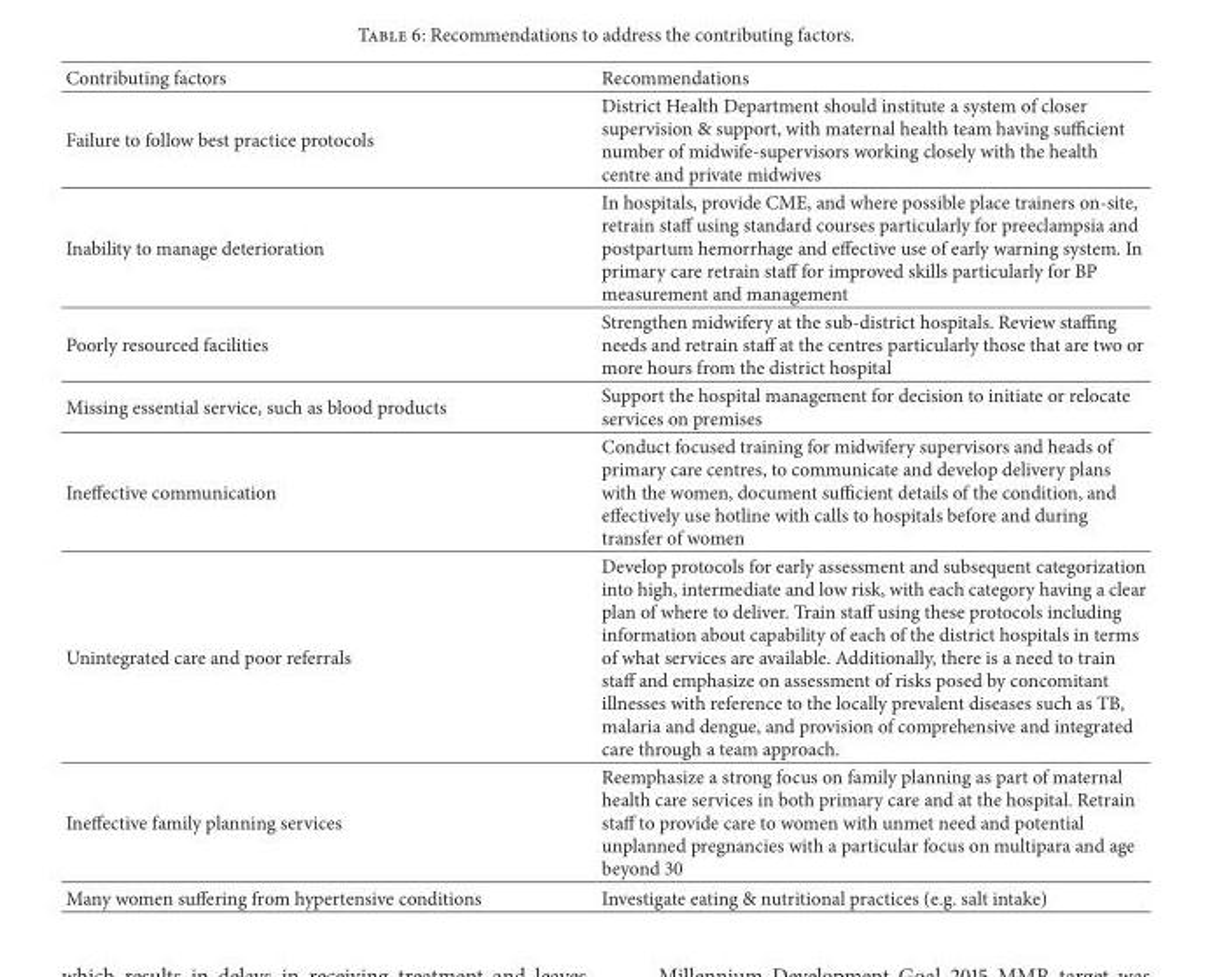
<table><thead><tr><td>Contributing factors</td><td>Recommendations</td></tr></thead><tbody><tr><td>Failure to follow best practice protocols</td><td>District Health Department should institute a system of closer supervision &amp; support, with maternal health team having sufficient number of midwife-supervisors working closely with the health centre and private midwives</td></tr><tr><td>Inability to manage deterioration</td><td>In hospitals, provide CME, and where possible place trainers on-site, retrain staff using standard courses particularly for preeclampsia and postpartum hemorrhage and effective use of early warning system. In primary care retrain staff for improved skills particularly for BP measurement and management</td></tr><tr><td>Poorly resourced facilities</td><td>Strengthen midwifery at the sub-district hospitals. Review staffing needs and retrain staff at the centres particularly those that are two or more hours from the district hospital</td></tr><tr><td>Missing essential service, such as blood products</td><td>Support the hospital management for decision to initiate or relocate services on premises</td></tr><tr><td>Ineffective communication</td><td>Conduct focused training for midwifery supervisors and heads of primary care centres, to communicate and develop delivery plans with the women, document sufficient details of the condition, and effectively use hotline with calls to hospitals before and during transfer of women</td></tr><tr><td>Unintegrated care and poor referrals</td><td>Develop protocols for early assessment and subsequent categorization into high, intermediate and low risk, with each category having a clear plan of where to deliver. Train staff using these protocols including information about capability of each of the district hospitals in terms of what services are available. Additionally, there is a need to train staff and emphasize on assessment of risks posed by concomitant illnesses with reference to the locally prevalent diseases such as TB, malaria and dengue, and provision of comprehensive and integrated care through a team approach.</td></tr><tr><td>Ineffective family planning services</td><td>Reemphasize a strong focus on family planning as part of maternal health care services in both primary care and at the hospital. Retrain staff to provide care to women with unmet need and potential unplanned pregnancies with a particular focus on multipara and age beyond 30</td></tr><tr><td>Many women suffering from hypertensive conditions</td><td>Investigate eating &amp; nutritional practices (e.g. salt intake)</td></tr></tbody></table>